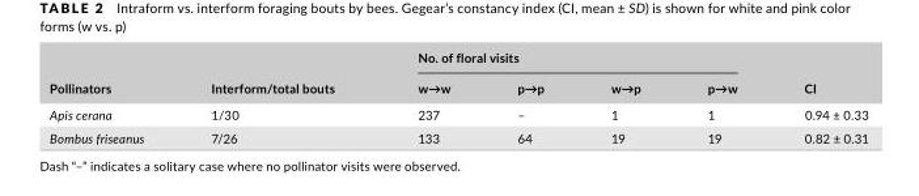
<table><thead><tr><td rowspan="2">Pollinators</td><td rowspan="2">Interform/total bouts</td><td colspan="4">No. of floral visits</td><td rowspan="2">CI</td></tr><tr><td>w→w</td><td>p→p</td><td>w→p</td><td>p→w</td></tr></thead><tbody><tr><td>Apis cerana</td><td>1/30</td><td>237</td><td>–</td><td>1</td><td>1</td><td>0.94 ± 0.33</td></tr><tr><td>Bombus friseanus</td><td>7/26</td><td>133</td><td>64</td><td>19</td><td>19</td><td>0.82 ± 0.31</td></tr></tbody></table>